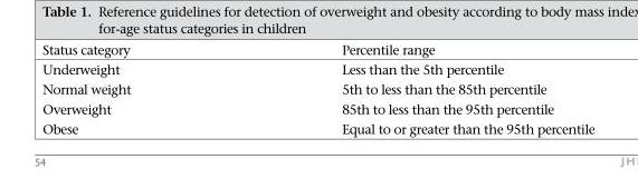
<table><thead><tr><td>Status category</td><td>Percentile range</td></tr></thead><tbody><tr><td>Underweight</td><td>Less than the 5th percentile</td></tr><tr><td>Normal weight</td><td>5th to less than the 85th percentile</td></tr><tr><td>Overweight</td><td>85th to less than the 95th percentile</td></tr><tr><td>Obese</td><td>Equal to or greater than the 95th percentile</td></tr></tbody></table>